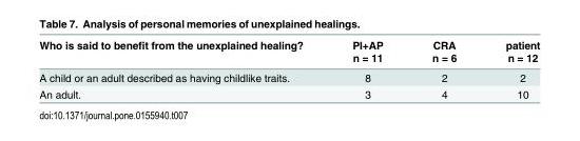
<table><thead><tr><td rowspan="2">Who is said to benefit from the unexplained healing?</td><td rowspan="2">PI+AP n = 11</td><td rowspan="2">CRA n = 6</td><td rowspan="2">patient n = 12</td></tr><tr></tr></thead><tbody><tr><td>A child or an adult described as having childlike traits.</td><td>8</td><td>2</td><td>2</td></tr><tr><td>An adult.</td><td>3</td><td>4</td><td>10</td></tr></tbody></table>